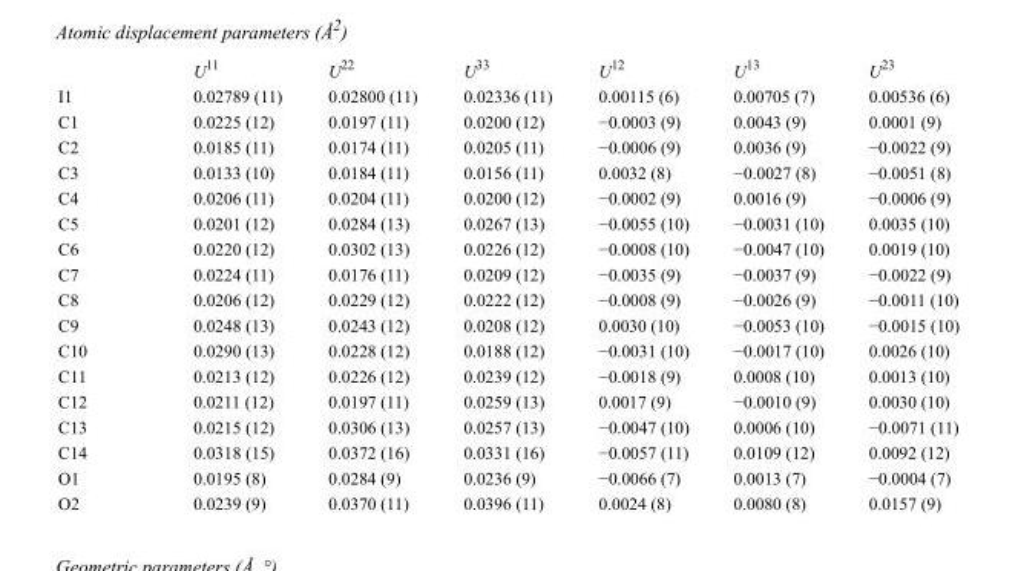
<table><thead><tr><td></td><td>U<sup>11</sup></td><td>U<sup>22</sup></td><td>U<sup>33</sup></td><td>U<sup>12</sup></td><td>U<sup>13</sup></td><td>U<sup>23</sup></td></tr></thead><tbody><tr><td>I1</td><td>0.02789 (11)</td><td>0.02800 (11)</td><td>0.02336 (11)</td><td>0.00115 (6)</td><td>0.00705 (7)</td><td>0.00536 (6)</td></tr><tr><td>C1</td><td>0.0225 (12)</td><td>0.0197 (11)</td><td>0.0200 (12)</td><td>−0.0003 (9)</td><td>0.0043 (9)</td><td>0.0001 (9)</td></tr><tr><td>C2</td><td>0.0185 (11)</td><td>0.0174 (11)</td><td>0.0205 (11)</td><td>−0.0006 (9)</td><td>0.0036 (9)</td><td>−0.0022 (9)</td></tr><tr><td>C3</td><td>0.0133 (10)</td><td>0.0184 (11)</td><td>0.0156 (11)</td><td>0.0032 (8)</td><td>−0.0027 (8)</td><td>−0.0051 (8)</td></tr><tr><td>C4</td><td>0.0206 (11)</td><td>0.0204 (11)</td><td>0.0200 (12)</td><td>−0.0002 (9)</td><td>0.0016 (9)</td><td>−0.0006 (9)</td></tr><tr><td>C5</td><td>0.0201 (12)</td><td>0.0284 (13)</td><td>0.0267 (13)</td><td>−0.0055 (10)</td><td>−0.0031 (10)</td><td>0.0035 (10)</td></tr><tr><td>C6</td><td>0.0220 (12)</td><td>0.0302 (13)</td><td>0.0226 (12)</td><td>−0.0008 (10)</td><td>−0.0047 (10)</td><td>0.0019 (10)</td></tr><tr><td>C7</td><td>0.0224 (11)</td><td>0.0176 (11)</td><td>0.0209 (12)</td><td>−0.0035 (9)</td><td>−0.0037 (9)</td><td>−0.0022 (9)</td></tr><tr><td>C8</td><td>0.0206 (12)</td><td>0.0229 (12)</td><td>0.0222 (12)</td><td>−0.0008 (9)</td><td>−0.0026 (9)</td><td>−0.0011 (10)</td></tr><tr><td>C9</td><td>0.0248 (13)</td><td>0.0243 (12)</td><td>0.0208 (12)</td><td>0.0030 (10)</td><td>−0.0053 (10)</td><td>−0.0015 (10)</td></tr><tr><td>C10</td><td>0.0290 (13)</td><td>0.0228 (12)</td><td>0.0188 (12)</td><td>−0.0031 (10)</td><td>−0.0017 (10)</td><td>0.0026 (10)</td></tr><tr><td>C11</td><td>0.0213 (12)</td><td>0.0226 (12)</td><td>0.0239 (12)</td><td>−0.0018 (9)</td><td>0.0008 (10)</td><td>0.0013 (10)</td></tr><tr><td>C12</td><td>0.0211 (12)</td><td>0.0197 (11)</td><td>0.0259 (13)</td><td>0.0017 (9)</td><td>−0.0010 (9)</td><td>0.0030 (10)</td></tr><tr><td>C13</td><td>0.0215 (12)</td><td>0.0306 (13)</td><td>0.0257 (13)</td><td>−0.0047 (10)</td><td>0.0006 (10)</td><td>−0.0071 (11)</td></tr><tr><td>C14</td><td>0.0318 (15)</td><td>0.0372 (16)</td><td>0.0331 (16)</td><td>−0.0057 (11)</td><td>0.0109 (12)</td><td>0.0092 (12)</td></tr><tr><td>O1</td><td>0.0195 (8)</td><td>0.0284 (9)</td><td>0.0236 (9)</td><td>−0.0066 (7)</td><td>0.0013 (7)</td><td>−0.0004 (7)</td></tr><tr><td>O2</td><td>0.0239 (9)</td><td>0.0370 (11)</td><td>0.0396 (11)</td><td>0.0024 (8)</td><td>0.0080 (8)</td><td>0.0157 (9)</td></tr></tbody></table>